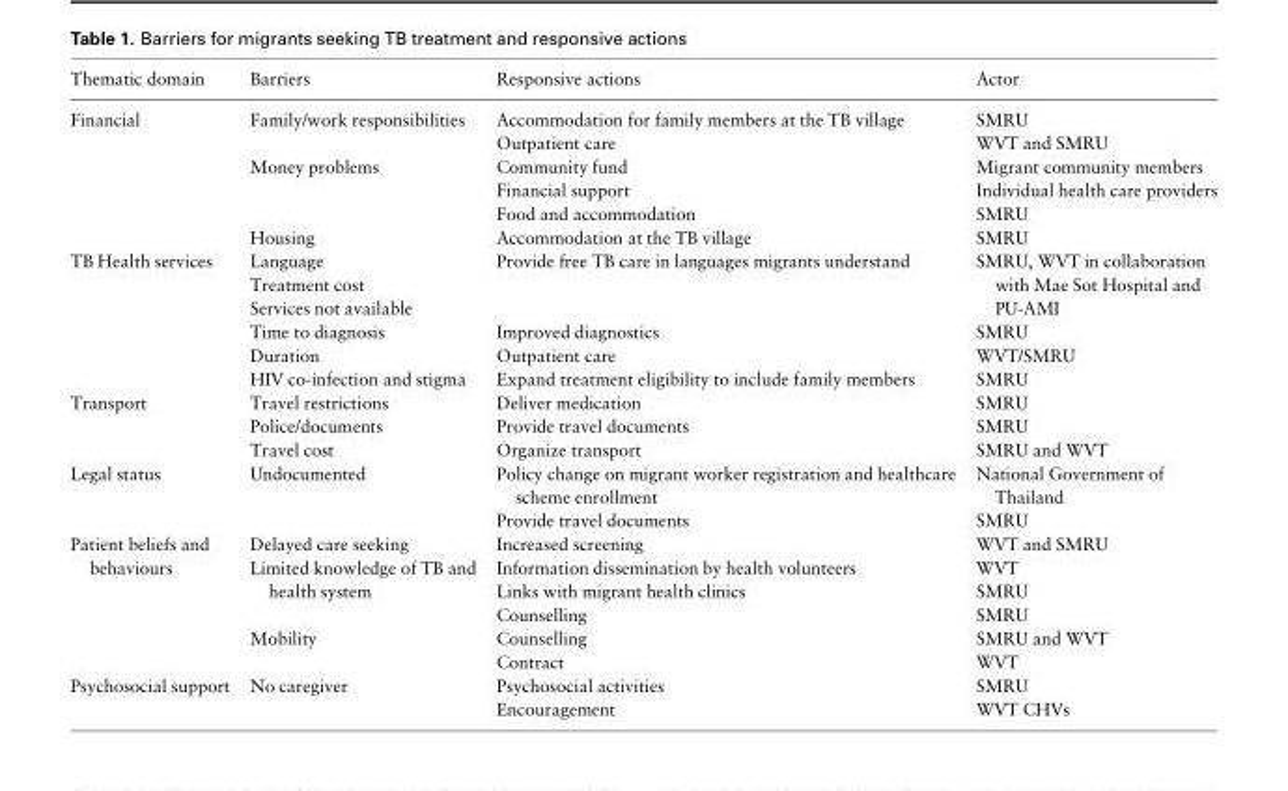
<table><thead><tr><td>Thematic domain</td><td>Barriers</td><td>Responsive actions</td><td>Actor</td></tr></thead><tbody><tr><td rowspan="6">Financial</td><td rowspan="2">Family/work responsibilities</td><td>Accommodation for family members at the TB village</td><td>SMRU</td></tr><tr><td>Outpatient care</td><td>WVT and SMRU</td></tr><tr><td rowspan="3">Money problems</td><td>Community fund</td><td>Migrant community members</td></tr><tr><td>Financial support</td><td>Individual health care providers</td></tr><tr><td>Food and accommodation</td><td>SMRU</td></tr><tr><td>Housing</td><td>Accommodation at the TB village</td><td>SMRU</td></tr><tr><td rowspan="6">TB Health services</td><td>Language</td><td rowspan="3">Provide free TB care in languages migrants understand</td><td rowspan="3">SMRU, WVT in collaboration with Mae Sot Hospital and PU-AMI</td></tr><tr><td>Treatment cost</td></tr><tr><td>Services not available</td></tr><tr><td>Time to diagnosis</td><td>Improved diagnostics</td><td>SMRU</td></tr><tr><td>Duration</td><td>Outpatient care</td><td>WVT/SMRU</td></tr><tr><td>HIV co-infection and stigma</td><td>Expand treatment eligibility to include family members</td><td>SMRU</td></tr><tr><td rowspan="3">Transport</td><td>Travel restrictions</td><td>Deliver medication</td><td>SMRU</td></tr><tr><td>Police/documents</td><td>Provide travel documents</td><td>SMRU</td></tr><tr><td>Travel cost</td><td>Organize transport</td><td>SMRU and WVT</td></tr><tr><td rowspan="2">Legal status</td><td rowspan="2">Undocumented</td><td>Policy change on migrant worker registration and healthcare scheme enrollment</td><td>National Government of Thailand</td></tr><tr><td>Provide travel documents</td><td>SMRU</td></tr><tr><td rowspan="6">Patient beliefs and behaviours</td><td>Delayed care seeking</td><td>Increased screening</td><td>WVT and SMRU</td></tr><tr><td rowspan="3">Limited knowledge of TB and health system</td><td>Information dissemination by health volunteers</td><td>WVT</td></tr><tr><td>Links with migrant health clinics</td><td>SMRU</td></tr><tr><td>Counselling</td><td>SMRU</td></tr><tr><td rowspan="2">Mobility</td><td>Counselling</td><td>SMRU and WVT</td></tr><tr><td>Contract</td><td>WVT</td></tr><tr><td rowspan="2">Psychosocial support</td><td rowspan="2">No caregiver</td><td>Psychosocial activities</td><td>SMRU</td></tr><tr><td>Encouragement</td><td>WVT CHVs</td></tr></tbody></table>